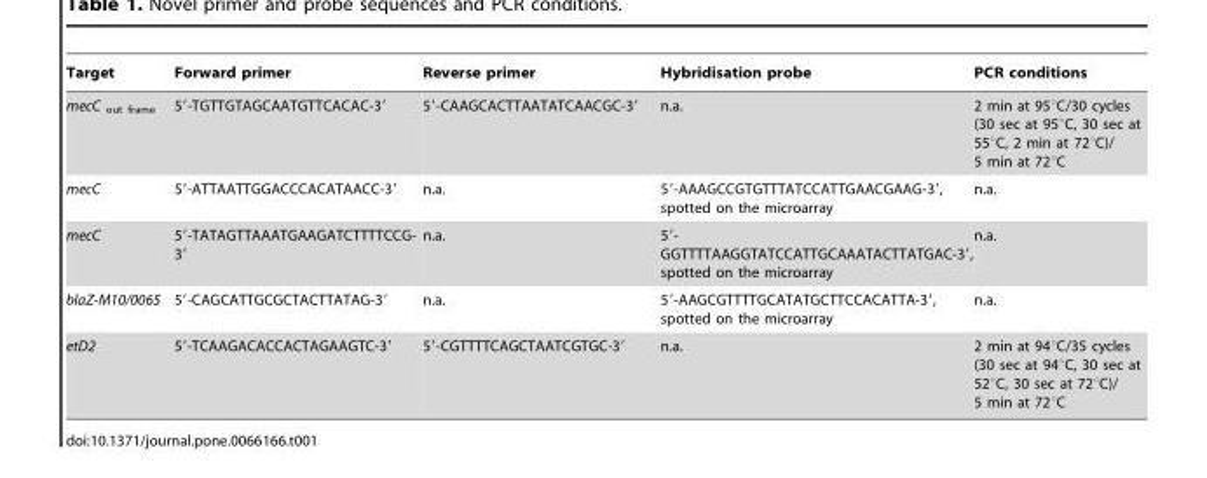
<table><thead><tr><td>Target</td><td>Forward primer</td><td>Reverse primer</td><td>Hybridisation probe</td><td>PCR conditions</td></tr></thead><tbody><tr><td>mecC <sub>out frame</sub></td><td>5′-TGTTGTAGCAATGTTCACAC-3′</td><td>5′-CAAGCACTTAATATCAACGC-3′</td><td>n.a.</td><td>2 min at 95°C/30 cycles (30 sec at 95°C, 30 sec at 55°C, 2 min at 72°C)/ 5 min at 72°C</td></tr><tr><td>mecC</td><td>5′-ATTAATTGGACCCACATAACC-3′</td><td>n.a.</td><td>5′-AAAGCCGTGTTTATCCATTGAACGAAG-3′, spotted on the microarray</td><td>n.a.</td></tr><tr><td>mecC</td><td>5′-TATAGTTAAATGAAGATCTTTTCCG- 3′</td><td>n.a.</td><td>5′- GGTTTTAAGGTATCCATTGCAAATACTTATGAC-3′, spotted on the microarray</td><td>n.a.</td></tr><tr><td>blaZ-M10/0065</td><td>5′-CAGCATTGCGCTACTTATAG-3′</td><td>n.a.</td><td>5′-AAGCGTTTTGCATATGCTTCCACATTA-3′, spotted on the microarray</td><td>n.a.</td></tr><tr><td>etD2</td><td>5′-TCAAGACACCACTAGAAGTC-3′</td><td>5′-CGTTTTCAGCTAATCGTGC-3′</td><td>n.a.</td><td>2 min at 94°C/35 cycles (30 sec at 94°C, 30 sec at 52°C, 30 sec at 72°C)/ 5 min at 72°C</td></tr></tbody></table>